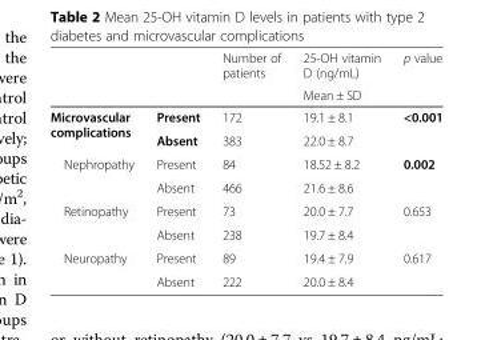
<table><thead><tr><td rowspan="2"></td><td rowspan="2"></td><td rowspan="2">Number of patients</td><td rowspan="2">25-OH vitamin D (ng/mL) Mean ± SD</td><td rowspan="2">p value</td></tr><tr></tr></thead><tbody><tr><td rowspan="2">Microvascular complications</td><td>Present</td><td>172</td><td>19.1 ± 8.1</td><td rowspan="2">&lt;0.001</td></tr><tr><td>Absent</td><td>383</td><td>22.0 ± 8.7</td></tr><tr><td rowspan="2">Nephropathy</td><td>Present</td><td>84</td><td>18.52 ± 8.2</td><td rowspan="2">0.002</td></tr><tr><td>Absent</td><td>466</td><td>21.6 ± 8.6</td></tr><tr><td rowspan="2">Retinopathy</td><td>Present</td><td>73</td><td>20.0 ± 7.7</td><td rowspan="2">0.653</td></tr><tr><td>Absent</td><td>238</td><td>19.7 ± 8.4</td></tr><tr><td rowspan="2">Neuropathy</td><td>Present</td><td>89</td><td>19.4 ± 7.9</td><td rowspan="2">0.617</td></tr><tr><td>Absent</td><td>222</td><td>20.0 ± 8.4</td></tr></tbody></table>